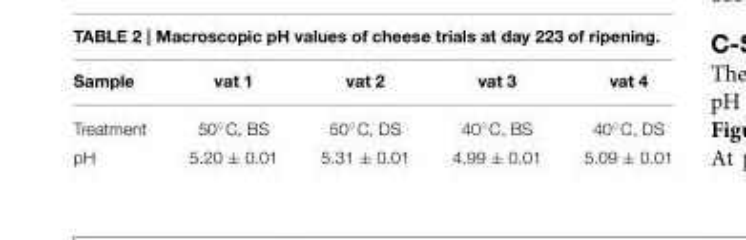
<table><thead><tr><td>Sample</td><td>vat 1</td><td>vat 2</td><td>vat 3</td><td>vat 4</td></tr></thead><tbody><tr><td>Treatment</td><td>50◦C, BS</td><td>50◦C, DS</td><td>40◦C, BS</td><td>40◦C, DS</td></tr><tr><td>pH</td><td>5.20 ± 0.01</td><td>5.31 ± 0.01</td><td>4.99 ± 0.01</td><td>5.09 ± 0.01</td></tr></tbody></table>